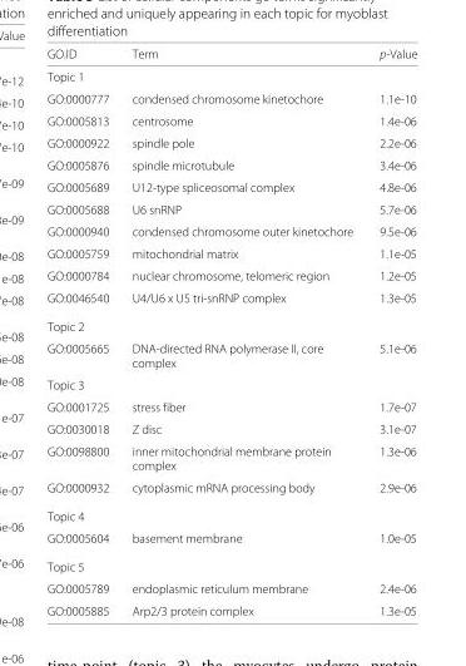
<table><thead><tr><td>GO.ID</td><td>Term</td><td>p-Value</td></tr></thead><tbody><tr><td colspan="3">Topic 1</td></tr><tr><td>GO:0000777</td><td>condensed chromosome kinetochore</td><td>1.1e-10</td></tr><tr><td>GO:0005813</td><td>centrosome</td><td>1.4e-06</td></tr><tr><td>GO:0000922</td><td>spindle pole</td><td>2.2e-06</td></tr><tr><td>GO:0005876</td><td>spindle microtubule</td><td>3.4e-06</td></tr><tr><td>GO:0005689</td><td>U12-type spliceosomal complex</td><td>4.8e-06</td></tr><tr><td>GO:0005688</td><td>U6 snRNP</td><td>5.7e-06</td></tr><tr><td>GO:0000940</td><td>condensed chromosome outer kinetochore</td><td>9.5e-06</td></tr><tr><td>GO:0005759</td><td>mitochondrial matrix</td><td>1.1e-05</td></tr><tr><td>GO:0000784</td><td>nuclear chromosome, telomeric region</td><td>1.2e-05</td></tr><tr><td>GO:0046540</td><td>U4/U6 x U5 tri-snRNP complex</td><td>1.3e-05</td></tr><tr><td colspan="3">Topic 2</td></tr><tr><td>GO:0005665</td><td>DNA-directed RNA polymerase II, core complex</td><td>5.1e-06</td></tr><tr><td colspan="3">Topic 3</td></tr><tr><td>GO:0001725</td><td>stress fiber</td><td>1.7e-07</td></tr><tr><td>GO:0030018</td><td>Z disc</td><td>3.1e-07</td></tr><tr><td>GO:0098800</td><td>inner mitochondrial membrane protein complex</td><td>1.3e-06</td></tr><tr><td>GO:0000932</td><td>cytoplasmic mRNA processing body</td><td>2.9e-06</td></tr><tr><td colspan="3">Topic 4</td></tr><tr><td>GO:0005604</td><td>basement membrane</td><td>1.0e-05</td></tr><tr><td colspan="3">Topic 5</td></tr><tr><td>GO:0005789</td><td>endoplasmic reticulum membrane</td><td>2.4e-06</td></tr><tr><td>GO:0005885</td><td>Arp2/3 protein complex</td><td>1.3e-05</td></tr></tbody></table>